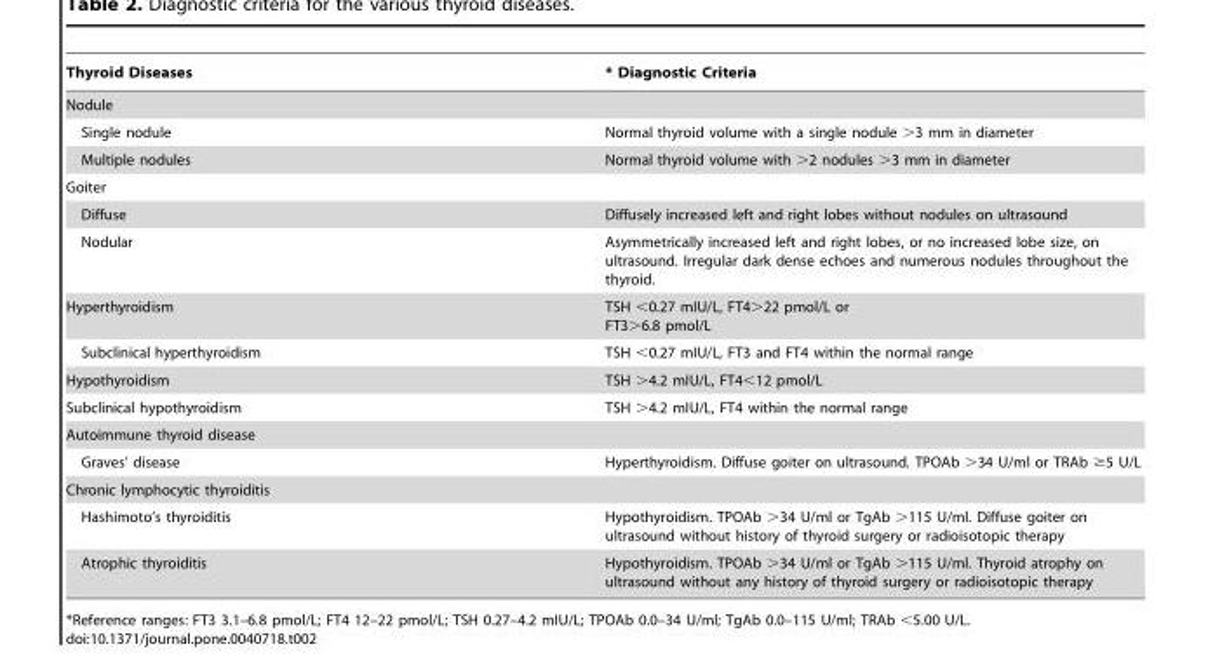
<table><thead><tr><td>Thyroid Diseases</td><td>* Diagnostic Criteria</td></tr></thead><tbody><tr><td colspan="2">Nodule</td></tr><tr><td>Single nodule</td><td>Normal thyroid volume with a single nodule &gt;3 mm in diameter</td></tr><tr><td>Multiple nodules</td><td>Normal thyroid volume with &gt;2 nodules &gt;3 mm in diameter</td></tr><tr><td colspan="2">Goiter</td></tr><tr><td>Diffuse</td><td>Diffusely increased left and right lobes without nodules on ultrasound</td></tr><tr><td>Nodular</td><td>Asymmetrically increased left and right lobes, or no increased lobe size, on ultrasound. Irregular dark dense echoes and numerous nodules throughout the thyroid.</td></tr><tr><td>Hyperthyroidism</td><td>TSH &lt;0.27 mIU/L, FT4&gt;22 pmol/L or FT3&gt;6.8 pmol/L</td></tr><tr><td>Subclinical hyperthyroidism</td><td>TSH &lt;0.27 mIU/L, FT3 and FT4 within the normal range</td></tr><tr><td>Hypothyroidism</td><td>TSH &gt;4.2 mIU/L, FT4&lt;12 pmol/L</td></tr><tr><td>Subclinical hypothyroidism</td><td>TSH &gt;4.2 mIU/L, FT4 within the normal range</td></tr><tr><td colspan="2">Autoimmune thyroid disease</td></tr><tr><td>Graves’ disease</td><td>Hyperthyroidism. Diffuse goiter on ultrasound. TPOAb &gt;34 U/ml or TRAb ≥5 U/L</td></tr><tr><td colspan="2">Chronic lymphocytic thyroiditis</td></tr><tr><td>Hashimoto’s thyroiditis</td><td>Hypothyroidism. TPOAb &gt;34 U/ml or TgAb &gt;115 U/ml. Diffuse goiter on ultrasound without history of thyroid surgery or radioisotopic therapy</td></tr><tr><td>Atrophic thyroiditis</td><td>Hypothyroidism. TPOAb &gt;34 U/ml or TgAb &gt;115 U/ml. Thyroid atrophy on ultrasound without any history of thyroid surgery or radioisotopic therapy</td></tr></tbody></table>